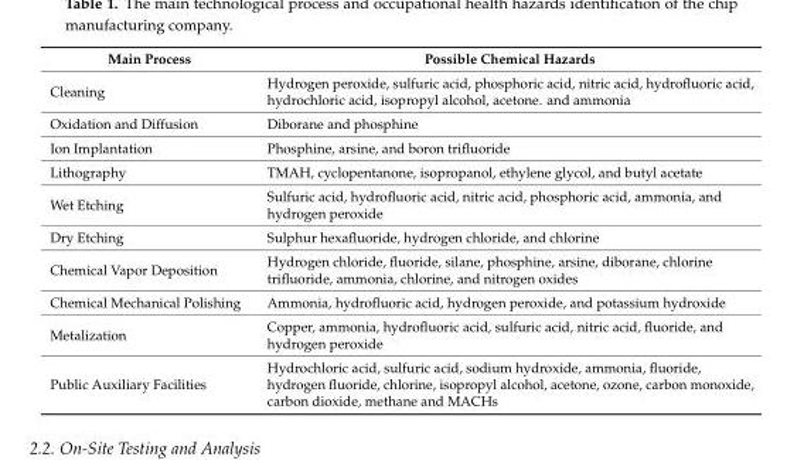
<table><thead><tr><td>Main Process</td><td>Possible Chemical Hazards</td></tr></thead><tbody><tr><td>Cleaning</td><td>Hydrogen peroxide, sulfuric acid, phosphoric acid, nitric acid, hydrofluoric acid, hydrochloric acid, isopropyl alcohol, acetone. and ammonia</td></tr><tr><td>Oxidation and Diffusion</td><td>Diborane and phosphine</td></tr><tr><td>Ion Implantation</td><td>Phosphine, arsine, and boron trifluoride</td></tr><tr><td>Lithography</td><td>TMAH, cyclopentanone, isopropanol, ethylene glycol, and butyl acetate</td></tr><tr><td>Wet Etching</td><td>Sulfuric acid, hydrofluoric acid, nitric acid, phosphoric acid, ammonia, and hydrogen peroxide</td></tr><tr><td>Dry Etching</td><td>Sulphur hexafluoride, hydrogen chloride, and chlorine</td></tr><tr><td>Chemical Vapor Deposition</td><td>Hydrogen chloride, fluoride, silane, phosphine, arsine, diborane, chlorine trifluoride, ammonia, chlorine, and nitrogen oxides</td></tr><tr><td>Chemical Mechanical Polishing</td><td>Ammonia, hydrofluoric acid, hydrogen peroxide, and potassium hydroxide</td></tr><tr><td>Metalization</td><td>Copper, ammonia, hydrofluoric acid, sulfuric acid, nitric acid, fluoride, and hydrogen peroxide</td></tr><tr><td>Public Auxiliary Facilities</td><td>Hydrochloric acid, sulfuric acid, sodium hydroxide, ammonia, fluoride, hydrogen fluoride, chlorine, isopropyl alcohol, acetone, ozone, carbon monoxide, carbon dioxide, methane and MACHs</td></tr></tbody></table>